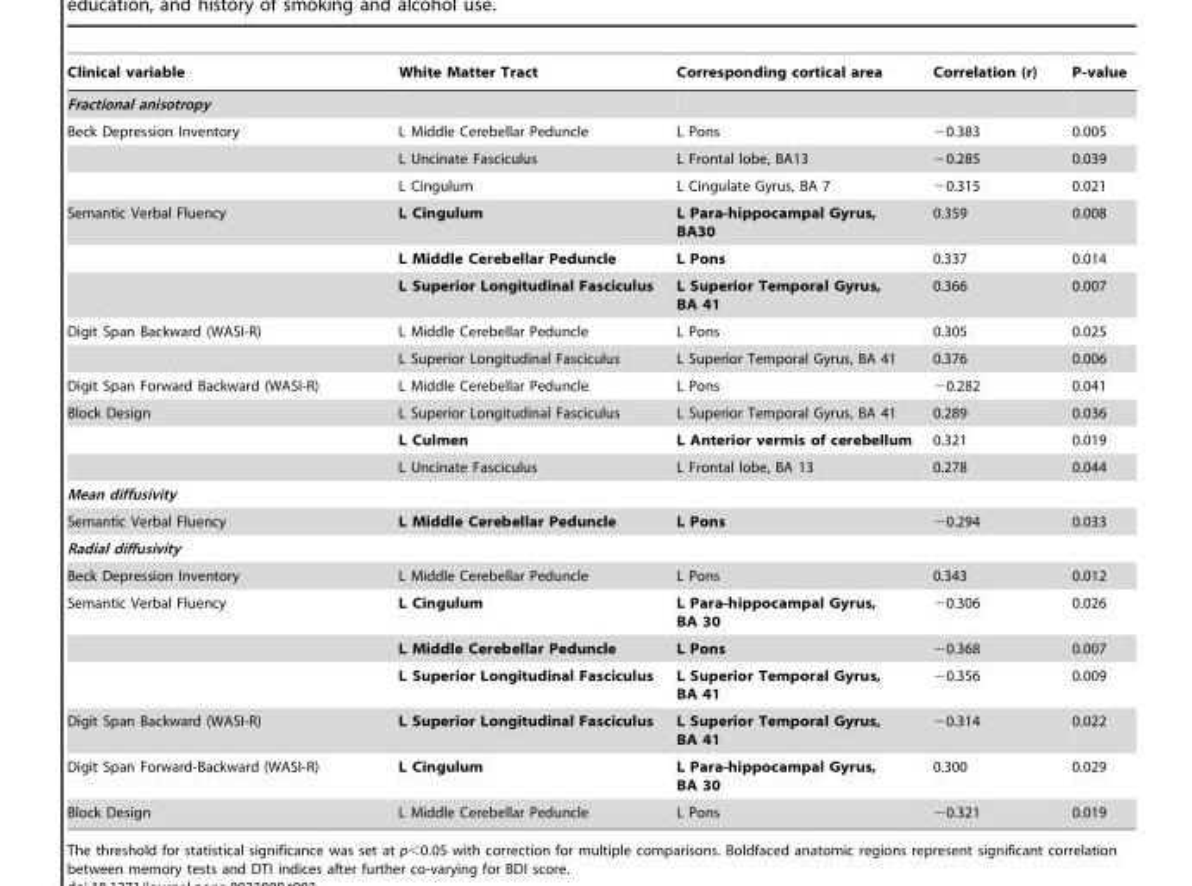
<table><thead><tr><td>Clinical variable</td><td>White Matter Tract</td><td>Corresponding cortical area</td><td>Correlation (r)</td><td>P-value</td></tr></thead><tbody><tr><td colspan="5">Fractional anisotropy</td></tr><tr><td rowspan="3">Beck Depression Inventory</td><td>L Middle Cerebellar Peduncle</td><td>L Pons</td><td>−0.383</td><td>0.005</td></tr><tr><td>L Uncinate Fasciculus</td><td>L Frontal lobe, BA13</td><td>−0.285</td><td>0.039</td></tr><tr><td>L Cingulum</td><td>L Cingulate Gyrus, BA 7</td><td>−0.315</td><td>0.021</td></tr><tr><td rowspan="3">Semantic Verbal Fluency</td><td>L Cingulum</td><td>L Para-hippocampal Gyrus, BA30</td><td>0.359</td><td>0.008</td></tr><tr><td>L Middle Cerebellar Peduncle</td><td>L Pons</td><td>0.337</td><td>0.014</td></tr><tr><td>L Superior Longitudinal Fasciculus</td><td>L Superior Temporal Gyrus, BA 41</td><td>0.366</td><td>0.007</td></tr><tr><td rowspan="2">Digit Span Backward (WASI-R)</td><td>L Middle Cerebellar Peduncle</td><td>L Pons</td><td>0.305</td><td>0.025</td></tr><tr><td>L Superior Longitudinal Fasciculus</td><td>L Superior Temporal Gyrus, BA 41</td><td>0.376</td><td>0.006</td></tr><tr><td>Digit Span Forward Backward (WASI-R)</td><td>L Middle Cerebellar Peduncle</td><td>L Pons</td><td>−0.282</td><td>0.041</td></tr><tr><td rowspan="3">Block Design</td><td>L Superior Longitudinal Fasciculus</td><td>L Superior Temporal Gyrus, BA 41</td><td>0.289</td><td>0.036</td></tr><tr><td>L Culmen</td><td>L Anterior vermis of cerebellum</td><td>0.321</td><td>0.019</td></tr><tr><td>L Uncinate Fasciculus</td><td>L Frontal lobe, BA 13</td><td>0.278</td><td>0.044</td></tr><tr><td colspan="5">Mean diffusivity</td></tr><tr><td>Semantic Verbal Fluency</td><td>L Middle Cerebellar Peduncle</td><td>L Pons</td><td>−0.294</td><td>0.033</td></tr><tr><td colspan="5">Radial diffusivity</td></tr><tr><td>Beck Depression Inventory</td><td>L Middle Cerebellar Peduncle</td><td>L Pons</td><td>0.343</td><td>0.012</td></tr><tr><td rowspan="3">Semantic Verbal Fluency</td><td>L Cingulum</td><td>L Para-hippocampal Gyrus, BA 30</td><td>−0.306</td><td>0.026</td></tr><tr><td>L Middle Cerebellar Peduncle</td><td>L Pons</td><td>−0.368</td><td>0.007</td></tr><tr><td>L Superior Longitudinal Fasciculus</td><td>L Superior Temporal Gyrus, BA 41</td><td>−0.356</td><td>0.009</td></tr><tr><td>Digit Span Backward (WASI-R)</td><td>L Superior Longitudinal Fasciculus</td><td>L Superior Temporal Gyrus, BA 41</td><td>−0.314</td><td>0.022</td></tr><tr><td>Digit Span Forward-Backward (WASI-R)</td><td>L Cingulum</td><td>L Para-hippocampal Gyrus, BA 30</td><td>0.300</td><td>0.029</td></tr><tr><td>Block Design</td><td>L Middle Cerebellar Peduncle</td><td>L Pons</td><td>−0.321</td><td>0.019</td></tr></tbody></table>